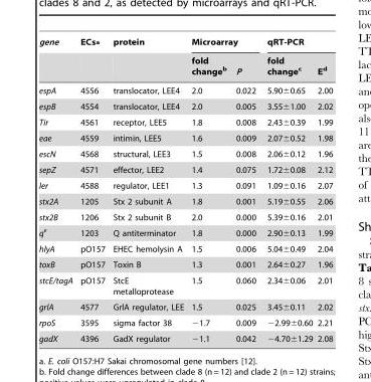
<table><thead><tr><td rowspan="2">gene</td><td rowspan="2">ECs<sup>a</sup></td><td rowspan="2">protein</td><td colspan="2">Microarray</td><td colspan="2">qRT-PCR</td></tr><tr><td>fold change<sup>b</sup></td><td>P</td><td>fold change<sup>c</sup></td><td>E<sup>d</sup></td></tr></thead><tbody><tr><td>espA</td><td>4556</td><td>translocator, LEE4</td><td>2.0</td><td>0.022</td><td>5.90±0.65</td><td>2.00</td></tr><tr><td>espB</td><td>4554</td><td>translocator, LEE4</td><td>2.0</td><td>0.005</td><td>3.55±1.00</td><td>2.02</td></tr><tr><td>Tir</td><td>4561</td><td>receptor, LEE5</td><td>1.8</td><td>0.008</td><td>2.43±0.39</td><td>1.99</td></tr><tr><td>eae</td><td>4559</td><td>intimin, LEE5</td><td>1.6</td><td>0.009</td><td>2.07±0.52</td><td>1.98</td></tr><tr><td>escN</td><td>4568</td><td>structural, LEE3</td><td>1.5</td><td>0.008</td><td>2.06±0.12</td><td>1.96</td></tr><tr><td>sepZ</td><td>4571</td><td>effector, LEE2</td><td>1.4</td><td>0.075</td><td>1.72±0.08</td><td>2.12</td></tr><tr><td>ler</td><td>4588</td><td>regulator, LEE1</td><td>1.3</td><td>0.091</td><td>1.09±0.16</td><td>2.07</td></tr><tr><td>stx2A</td><td>1205</td><td>Stx 2 subunit A</td><td>1.8</td><td>0.001</td><td>5.19±0.55</td><td>2.06</td></tr><tr><td>stx2B</td><td>1206</td><td>Stx 2 subunit B</td><td>2.0</td><td>0.000</td><td>5.39±0.16</td><td>2.01</td></tr><tr><td>q<sup>e</sup></td><td>1203</td><td>Q antiterminator</td><td>1.8</td><td>0.000</td><td>2.90±0.13</td><td>1.99</td></tr><tr><td>hlyA</td><td>pO157</td><td>EHEC hemolysin A</td><td>1.5</td><td>0.006</td><td>5.04±0.49</td><td>2.04</td></tr><tr><td>toxB</td><td>pO157</td><td>Toxin B</td><td>1.3</td><td>0.001</td><td>2.64±0.27</td><td>1.96</td></tr><tr><td>stcE/tagA</td><td>pO157</td><td>StcE metalloprotease</td><td>1.5</td><td>0.060</td><td>2.34±0.06</td><td>2.01</td></tr><tr><td>grlA</td><td>4577</td><td>GrlA regulator, LEE</td><td>1.5</td><td>0.025</td><td>3.45±0.11</td><td>2.02</td></tr><tr><td>rpoS</td><td>3595</td><td>sigma factor 38</td><td>−1.7</td><td>0.009</td><td>−2.99±0.60</td><td>2.21</td></tr><tr><td>gadX</td><td>4396</td><td>GadX regulator</td><td>−1.1</td><td>0.042</td><td>−4.70±1.29</td><td>2.08</td></tr></tbody></table>